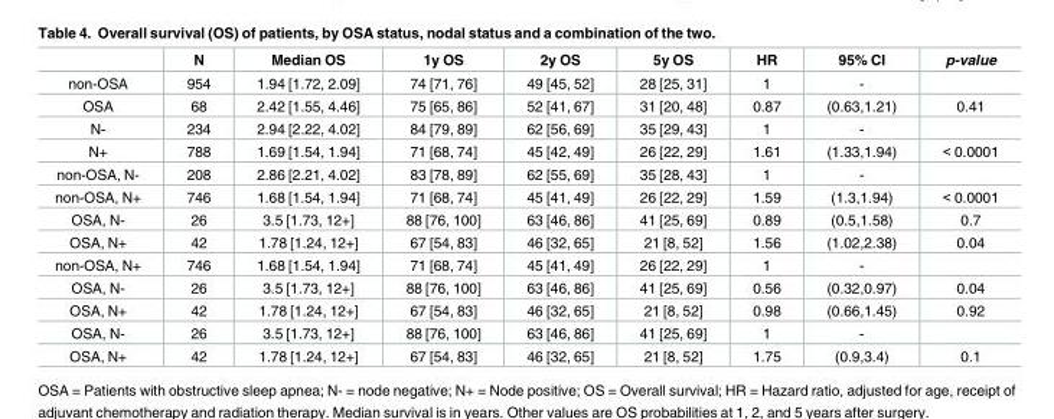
<table><thead><tr><td></td><td>N</td><td>Median OS</td><td>1y OS</td><td>2y OS</td><td>5y OS</td><td>HR</td><td>95% CI</td><td>p-value</td></tr></thead><tbody><tr><td>non-OSA</td><td>954</td><td>1.94 [1.72, 2.09]</td><td>74 [71, 76]</td><td>49 [45, 52]</td><td>28 [25, 31]</td><td>1</td><td>-</td><td></td></tr><tr><td>OSA</td><td>68</td><td>2.42 [1.55, 4.46]</td><td>75 [65, 86]</td><td>52 [41, 67]</td><td>31 [20, 48]</td><td>0.87</td><td>(0.63,1.21)</td><td>0.41</td></tr><tr><td>N-</td><td>234</td><td>2.94 [2.22, 4.02]</td><td>84 [79, 89]</td><td>62 [56, 69]</td><td>35 [29, 43]</td><td>1</td><td>-</td><td></td></tr><tr><td>N+</td><td>788</td><td>1.69 [1.54, 1.94]</td><td>71 [68, 74]</td><td>45 [42, 49]</td><td>26 [22, 29]</td><td>1.61</td><td>(1.33,1.94)</td><td>&lt; 0.0001</td></tr><tr><td>non-OSA, N-</td><td>208</td><td>2.86 [2.21, 4.02]</td><td>83 [78, 89]</td><td>62 [55, 69]</td><td>35 [28, 43]</td><td>1</td><td>-</td><td></td></tr><tr><td>non-OSA, N+</td><td>746</td><td>1.68 [1.54, 1.94]</td><td>71 [68, 74]</td><td>45 [41, 49]</td><td>26 [22, 29]</td><td>1.59</td><td>(1.3,1.94)</td><td>&lt; 0.0001</td></tr><tr><td>OSA, N-</td><td>26</td><td>3.5 [1.73, 12+]</td><td>88 [76, 100]</td><td>63 [46, 86]</td><td>41 [25, 69]</td><td>0.89</td><td>(0.5,1.58)</td><td>0.7</td></tr><tr><td>OSA, N+</td><td>42</td><td>1.78 [1.24, 12+]</td><td>67 [54, 83]</td><td>46 [32, 65]</td><td>21 [8, 52]</td><td>1.56</td><td>(1.02,2.38)</td><td>0.04</td></tr><tr><td>non-OSA, N+</td><td>746</td><td>1.68 [1.54, 1.94]</td><td>71 [68, 74]</td><td>45 [41, 49]</td><td>26 [22, 29]</td><td>1</td><td>-</td><td></td></tr><tr><td>OSA, N-</td><td>26</td><td>3.5 [1.73, 12+]</td><td>88 [76, 100]</td><td>63 [46, 86]</td><td>41 [25, 69]</td><td>0.56</td><td>(0.32,0.97)</td><td>0.04</td></tr><tr><td>OSA, N+</td><td>42</td><td>1.78 [1.24, 12+]</td><td>67 [54, 83]</td><td>46 [32, 65]</td><td>21 [8, 52]</td><td>0.98</td><td>(0.66,1.45)</td><td>0.92</td></tr><tr><td>OSA, N-</td><td>26</td><td>3.5 [1.73, 12+]</td><td>88 [76, 100]</td><td>63 [46, 86]</td><td>41 [25, 69]</td><td>1</td><td>-</td><td></td></tr><tr><td>OSA, N+</td><td>42</td><td>1.78 [1.24, 12+]</td><td>67 [54, 83]</td><td>46 [32, 65]</td><td>21 [8, 52]</td><td>1.75</td><td>(0.9,3.4)</td><td>0.1</td></tr></tbody></table>